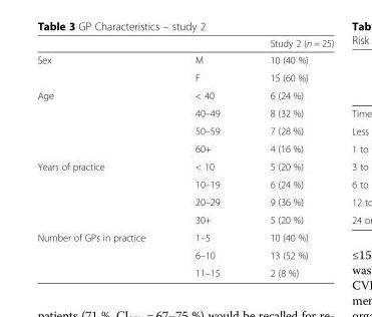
<table><thead><tr><td></td><td></td><td>Study 2 (n = 25)</td></tr></thead><tbody><tr><td rowspan="2">Sex</td><td>M</td><td>10 (40 %)</td></tr><tr><td>F</td><td>15 (60 %)</td></tr><tr><td rowspan="4">Age</td><td>&lt; 40</td><td>6 (24 %)</td></tr><tr><td>40–49</td><td>8 (32 %)</td></tr><tr><td>50–59</td><td>7 (28 %)</td></tr><tr><td>60+</td><td>4 (16 %)</td></tr><tr><td rowspan="4">Years of practice</td><td>&lt; 10</td><td>5 (20 %)</td></tr><tr><td>10–19</td><td>6 (24 %)</td></tr><tr><td>20–29</td><td>9 (36 %)</td></tr><tr><td>30+</td><td>5 (20 %)</td></tr><tr><td rowspan="3">Number of GPs in practice</td><td>1–5</td><td>10 (40 %)</td></tr><tr><td>6–10</td><td>13 (52 %)</td></tr><tr><td>11–15</td><td>2 (8 %)</td></tr></tbody></table>